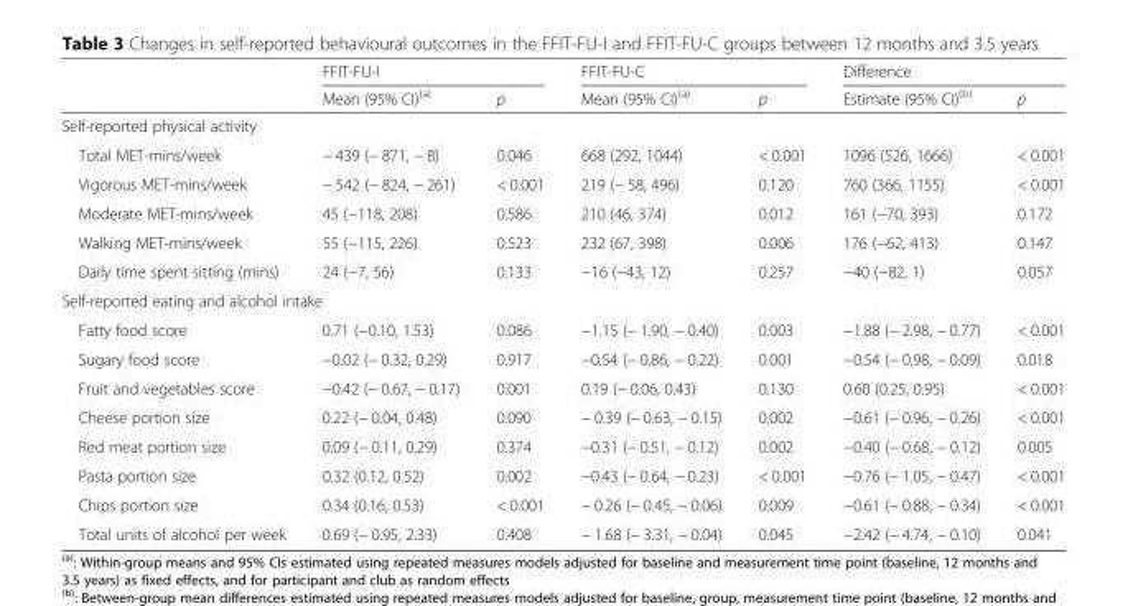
<table><thead><tr><td rowspan="2"></td><td colspan="2">FFIT-FU-I</td><td colspan="2">FFIT-FU-C</td><td colspan="2">Difference</td></tr><tr><td>Mean (95% CI)<sup>(a)</sup></td><td>p</td><td>Mean (95% CI)<sup>(a)</sup></td><td>p</td><td>Estimate (95% CI)<sup>(b)</sup></td><td>p</td></tr></thead><tbody><tr><td colspan="7">Self-reported physical activity</td></tr><tr><td>Total MET-mins/week</td><td>− 439 (− 871, − 8)</td><td>0.046</td><td>668 (292, 1044)</td><td>&lt; 0.001</td><td>1096 (526, 1666)</td><td>&lt; 0.001</td></tr><tr><td>Vigorous MET-mins/week</td><td>− 542 (− 824, − 261)</td><td>&lt; 0.001</td><td>219 (− 58, 496)</td><td>0.120</td><td>760 (366, 1155)</td><td>&lt; 0.001</td></tr><tr><td>Moderate MET-mins/week</td><td>45 (−118, 208)</td><td>0.586</td><td>210 (46, 374)</td><td>0.012</td><td>161 (−70, 393)</td><td>0.172</td></tr><tr><td>Walking MET-mins/week</td><td>55 (−115, 226)</td><td>0.523</td><td>232 (67, 398)</td><td>0.006</td><td>176 (−62, 413)</td><td>0.147</td></tr><tr><td>Daily time spent sitting (mins)</td><td>24 (−7, 56)</td><td>0.133</td><td>−16 (−43, 12)</td><td>0.257</td><td>−40 (−82, 1)</td><td>0.057</td></tr><tr><td colspan="7">Self-reported eating and alcohol intake</td></tr><tr><td>Fatty food score</td><td>0.71 (−0.10, 1.53)</td><td>0.086</td><td>−1.15 (− 1.90, − 0.40)</td><td>0.003</td><td>−1.88 (− 2.98, − 0.77)</td><td>&lt; 0.001</td></tr><tr><td>Sugary food score</td><td>−0.02 (− 0.32, 0.29)</td><td>0.917</td><td>−0.54 (− 0.86, − 0.22)</td><td>0.001</td><td>−0.54 (− 0.98, − 0.09)</td><td>0.018</td></tr><tr><td>Fruit and vegetables score</td><td>−0.42 (− 0.67, − 0.17)</td><td>0.001</td><td>0.19 (− 0.06, 0.43)</td><td>0.130</td><td>0.60 (0.25, 0.95)</td><td>&lt; 0.001</td></tr><tr><td>Cheese portion size</td><td>0.22 (− 0.04, 0.48)</td><td>0.090</td><td>− 0.39 (− 0.63, − 0.15)</td><td>0.002</td><td>−0.61 (− 0.96, − 0.26)</td><td>&lt; 0.001</td></tr><tr><td>Red meat portion size</td><td>0.09 (− 0.11, 0.29)</td><td>0.374</td><td>−0.31 (− 0.51, − 0.12)</td><td>0.002</td><td>−0.40 (− 0.68, − 0.12)</td><td>0.005</td></tr><tr><td>Pasta portion size</td><td>0.32 (0.12, 0.52)</td><td>0.002</td><td>−0.43 (− 0.64, − 0.23)</td><td>&lt; 0.001</td><td>−0.76 (− 1.05, − 0.47)</td><td>&lt; 0.001</td></tr><tr><td>Chips portion size</td><td>0.34 (0.16, 0.53)</td><td>&lt; 0.001</td><td>− 0.26 (− 0.45, − 0.06)</td><td>0.009</td><td>−0.61 (− 0.88, − 0.34)</td><td>&lt; 0.001</td></tr><tr><td>Total units of alcohol per week</td><td>0.69 (− 0.95, 2.33)</td><td>0.408</td><td>− 1.68 (− 3.31, − 0.04)</td><td>0.045</td><td>−2.42 (− 4.74, − 0.10)</td><td>0.041</td></tr></tbody></table>